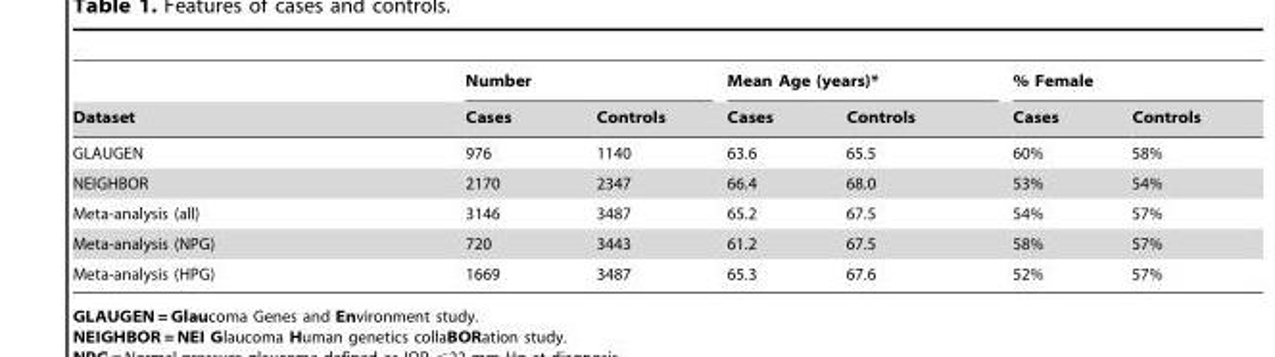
<table><thead><tr><td rowspan="2">Dataset</td><td colspan="2">Number</td><td colspan="2">Mean Age (years)*</td><td colspan="2">% Female</td></tr><tr><td>Cases</td><td>Controls</td><td>Cases</td><td>Controls</td><td>Cases</td><td>Controls</td></tr></thead><tbody><tr><td>GLAUGEN</td><td>976</td><td>1140</td><td>63.6</td><td>65.5</td><td>60%</td><td>58%</td></tr><tr><td>NEIGHBOR</td><td>2170</td><td>2347</td><td>66.4</td><td>68.0</td><td>53%</td><td>54%</td></tr><tr><td>Meta-analysis (all)</td><td>3146</td><td>3487</td><td>65.2</td><td>67.5</td><td>54%</td><td>57%</td></tr><tr><td>Meta-analysis (NPG)</td><td>720</td><td>3443</td><td>61.2</td><td>67.5</td><td>58%</td><td>57%</td></tr><tr><td>Meta-analysis (HPG)</td><td>1669</td><td>3487</td><td>65.3</td><td>67.6</td><td>52%</td><td>57%</td></tr></tbody></table>